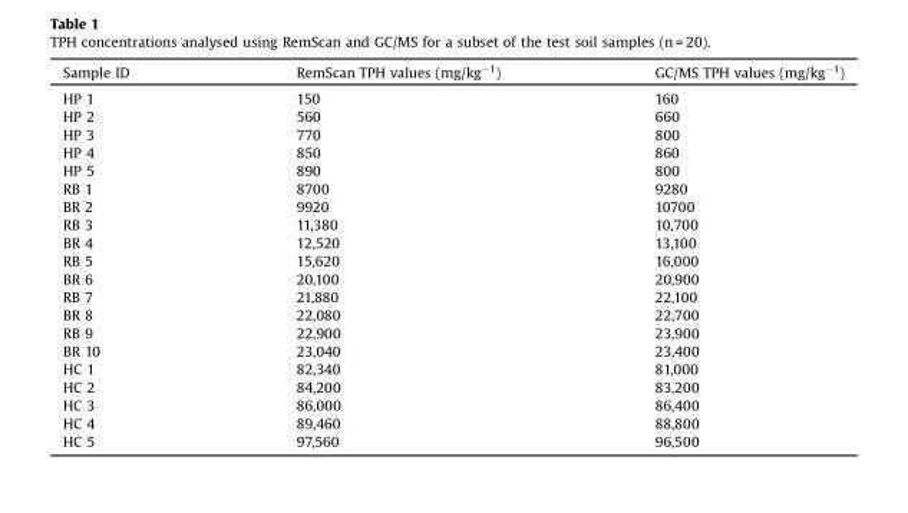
<table><thead><tr><td>Sample ID</td><td>RemScan TPH values (mg/kg<sup>−1</sup>)</td><td>GC/MS TPH values (mg/kg<sup>−1</sup>)</td></tr></thead><tbody><tr><td>HP 1</td><td>150</td><td>160</td></tr><tr><td>HP 2</td><td>560</td><td>660</td></tr><tr><td>HP 3</td><td>770</td><td>800</td></tr><tr><td>HP 4</td><td>850</td><td>860</td></tr><tr><td>HP 5</td><td>890</td><td>800</td></tr><tr><td>RB 1</td><td>8700</td><td>9280</td></tr><tr><td>BR 2</td><td>9920</td><td>10700</td></tr><tr><td>RB 3</td><td>11,380</td><td>10,700</td></tr><tr><td>BR 4</td><td>12,520</td><td>13,100</td></tr><tr><td>RB 5</td><td>15,620</td><td>16,000</td></tr><tr><td>BR 6</td><td>20,100</td><td>20,900</td></tr><tr><td>RB 7</td><td>21,880</td><td>22,100</td></tr><tr><td>BR 8</td><td>22,080</td><td>22,700</td></tr><tr><td>RB 9</td><td>22,900</td><td>23,900</td></tr><tr><td>BR 10</td><td>23,040</td><td>23,400</td></tr><tr><td>HC 1</td><td>82,340</td><td>81,000</td></tr><tr><td>HC 2</td><td>84,200</td><td>83,200</td></tr><tr><td>HC 3</td><td>86,000</td><td>86,400</td></tr><tr><td>HC 4</td><td>89,460</td><td>88,800</td></tr><tr><td>HC 5</td><td>97,560</td><td>96,500</td></tr></tbody></table>